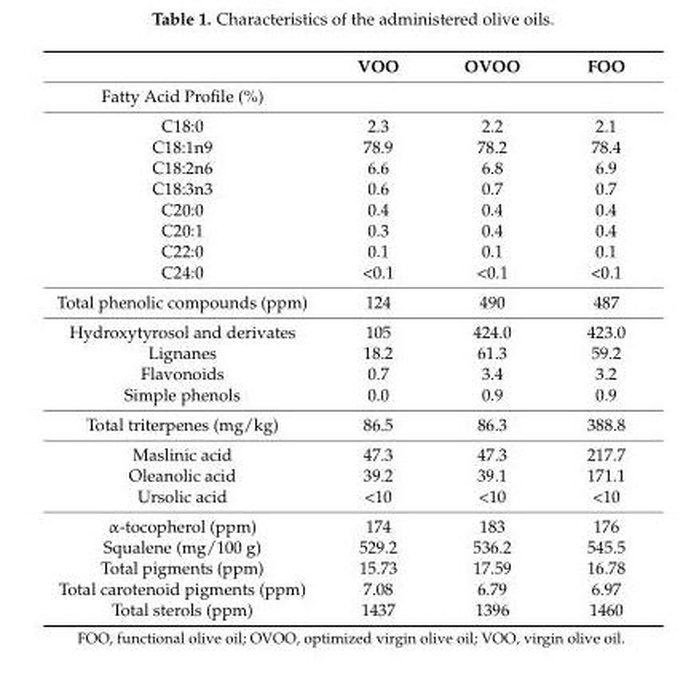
<table><thead><tr><td></td><td>VOO</td><td>OVOO</td><td>FOO</td></tr></thead><tbody><tr><td colspan="4">Fatty Acid Profile (%)</td></tr><tr><td>C18:0</td><td>2.3</td><td>2.2</td><td>2.1</td></tr><tr><td>C18:1n9</td><td>78.9</td><td>78.2</td><td>78.4</td></tr><tr><td>C18:2n6</td><td>6.6</td><td>6.8</td><td>6.9</td></tr><tr><td>C18:3n3</td><td>0.6</td><td>0.7</td><td>0.7</td></tr><tr><td>C20:0</td><td>0.4</td><td>0.4</td><td>0.4</td></tr><tr><td>C20:1</td><td>0.3</td><td>0.4</td><td>0.4</td></tr><tr><td>C22:0</td><td>0.1</td><td>0.1</td><td>0.1</td></tr><tr><td>C24:0</td><td>&lt;0.1</td><td>&lt;0.1</td><td>&lt;0.1</td></tr><tr><td>Total phenolic compounds (ppm)</td><td>124</td><td>490</td><td>487</td></tr><tr><td>Hydroxytyrosol and derivates</td><td>105</td><td>424.0</td><td>423.0</td></tr><tr><td>Lignanes</td><td>18.2</td><td>61.3</td><td>59.2</td></tr><tr><td>Flavonoids</td><td>0.7</td><td>3.4</td><td>3.2</td></tr><tr><td>Simple phenols</td><td>0.0</td><td>0.9</td><td>0.9</td></tr><tr><td>Total triterpenes (mg/kg)</td><td>86.5</td><td>86.3</td><td>388.8</td></tr><tr><td>Maslinic acid</td><td>47.3</td><td>47.3</td><td>217.7</td></tr><tr><td>Oleanolic acid</td><td>39.2</td><td>39.1</td><td>171.1</td></tr><tr><td>Ursolic acid</td><td>&lt;10</td><td>&lt;10</td><td>&lt;10</td></tr><tr><td>α-tocopherol (ppm)</td><td>174</td><td>183</td><td>176</td></tr><tr><td>Squalene (mg/100 g)</td><td>529.2</td><td>536.2</td><td>545.5</td></tr><tr><td>Total pigments (ppm)</td><td>15.73</td><td>17.59</td><td>16.78</td></tr><tr><td>Total carotenoid pigments (ppm)</td><td>7.08</td><td>6.79</td><td>6.97</td></tr><tr><td>Total sterols (ppm)</td><td>1437</td><td>1396</td><td>1460</td></tr></tbody></table>